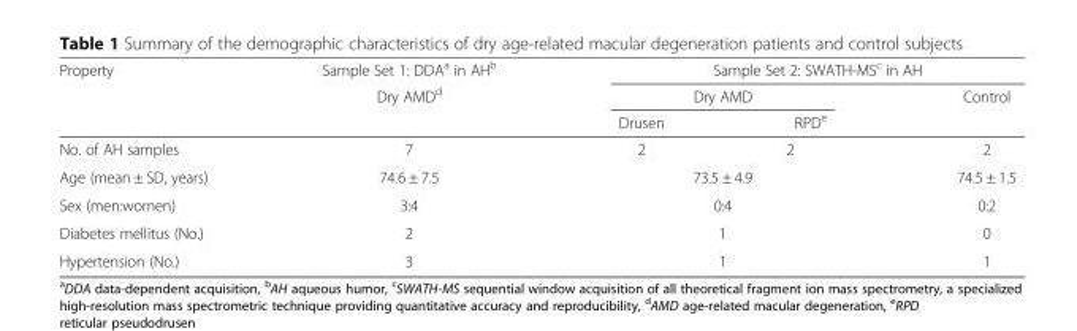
<table><thead><tr><td rowspan="3">Property</td><td rowspan="3">Sample Set 1: DDA<sup>a</sup> in AH<sup>b</sup> Dry AMD<sup>d</sup></td><td colspan="3">Sample Set 2: SWATH-MS<sup>c</sup> in AH</td></tr><tr><td colspan="2">Dry AMD</td><td rowspan="2">Control</td></tr><tr><td>Drusen</td><td>RPD<sup>e</sup></td></tr></thead><tbody><tr><td>No. of AH samples</td><td>7</td><td>2</td><td>2</td><td>2</td></tr><tr><td>Age (mean ± SD, years)</td><td>74.6 ± 7.5</td><td colspan="2">73.5 ± 4.9</td><td>74.5 ± 1.5</td></tr><tr><td>Sex (men:women)</td><td>3:4</td><td colspan="2">0:4</td><td>0:2</td></tr><tr><td>Diabetes mellitus (No.)</td><td>2</td><td colspan="2">1</td><td>0</td></tr><tr><td>Hypertension (No.)</td><td>3</td><td colspan="2">1</td><td>1</td></tr></tbody></table>